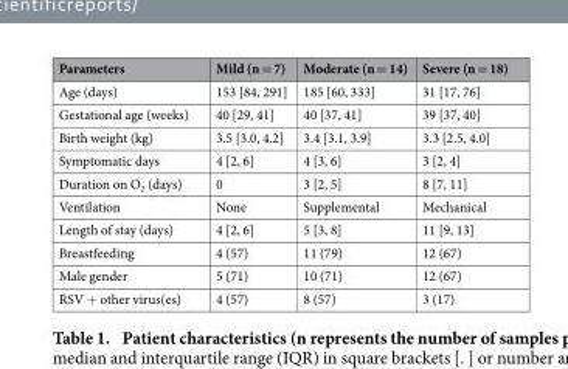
<table><thead><tr><td>Parameters</td><td>Mild (n = 7)</td><td>Moderate (n = 14)</td><td>Severe (n = 18)</td></tr></thead><tbody><tr><td>Age (days)</td><td>153 [84, 291]</td><td>185 [60, 333]</td><td>31 [17, 76]</td></tr><tr><td>Gestational age (weeks)</td><td>40 [29, 41]</td><td>40 [37, 41]</td><td>39 [37, 40]</td></tr><tr><td>Birth weight (kg)</td><td>3.5 [3.0, 4.2]</td><td>3.4 [3.1, 3.9]</td><td>3.3 [2.5, 4.0]</td></tr><tr><td>Symptomatic days</td><td>4 [2, 6]</td><td>4 [3, 6]</td><td>3 [2, 4]</td></tr><tr><td>Duration on O<sub>2</sub> (days)</td><td>0</td><td>3 [2, 5]</td><td>8 [7, 11]</td></tr><tr><td>Ventilation</td><td>None</td><td>Supplemental</td><td>Mechanical</td></tr><tr><td>Length of stay (days)</td><td>4 [2, 6]</td><td>5 [3, 8]</td><td>11 [9, 13]</td></tr><tr><td>Breastfeeding</td><td>4 (57)</td><td>11 (79)</td><td>12 (67)</td></tr><tr><td>Male gender</td><td>5 (71)</td><td>10 (71)</td><td>12 (67)</td></tr><tr><td>RSV + other virus(es)</td><td>4 (57)</td><td>8 (57)</td><td>3 (17)</td></tr></tbody></table>